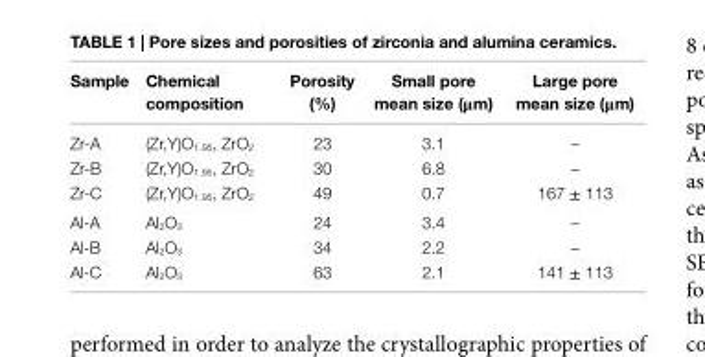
<table><thead><tr><td>sample</td><td>chemical composition</td><td>Porosity (%)</td><td>small pore mean size (μm)</td><td>large pore mean size (μm)</td></tr></thead><tbody><tr><td>Zr-A</td><td>(Zr,Y)O<sub>1.95</sub>, ZrO<sub>2</sub></td><td>23</td><td>3.1</td><td>–</td></tr><tr><td>Zr-B</td><td>(Zr,Y)O<sub>1.95</sub>, ZrO<sub>2</sub></td><td>30</td><td>6.8</td><td>–</td></tr><tr><td>Zr-C</td><td>(Zr,Y)O<sub>1.95</sub>, ZrO<sub>2</sub></td><td>49</td><td>0.7</td><td>167 ± 113</td></tr><tr><td>Al-A</td><td>Al<sub>2</sub>O<sub>3</sub></td><td>24</td><td>3.4</td><td>–</td></tr><tr><td>Al-B</td><td>Al<sub>2</sub>O<sub>3</sub></td><td>34</td><td>2.2</td><td>–</td></tr><tr><td>Al-C</td><td>Al<sub>2</sub>O<sub>3</sub></td><td>63</td><td>2.1</td><td>141 ± 113</td></tr></tbody></table>